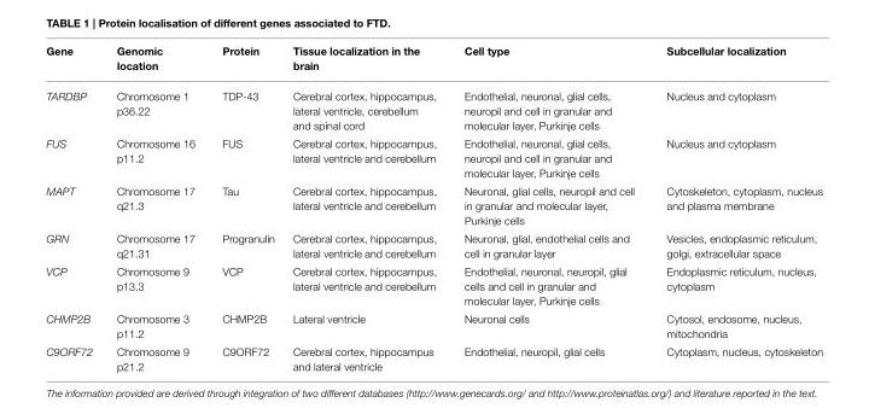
<table><thead><tr><td>Gene</td><td>Genomic location</td><td>Protein</td><td>Tissue localization in the brain</td><td>Cell type</td><td>Subcellular localization</td></tr></thead><tbody><tr><td>TARDBP</td><td>Chromosome 1 p36.22</td><td>TDP-43</td><td>Cerebral cortex, hippocampus, lateral ventricle, cerebellum and spinal cord</td><td>Endothelial, neuronal, glial cells, neuropil and cell in granular and molecular layer, Purkinje cells</td><td>Nucleus and cytoplasm</td></tr><tr><td>FUS</td><td>Chromosome 16 p11.2</td><td>FUS</td><td>Cerebral cortex, hippocampus, lateral ventricle and cerebellum</td><td>Endothelial, neuronal, glial cells, neuropil and cell in granular and molecular layer, Purkinje cells</td><td>Nucleus and cytoplasm</td></tr><tr><td>MAPT</td><td>Chromosome 17 q21.3</td><td>Tau</td><td>Cerebral cortex, hippocampus, lateral ventricle and cerebellum</td><td>Neuronal, glial cells, neuropil and cell in granular and molecular layer, Purkinje cells</td><td>Cytoskeleton, cytoplasm, nucleus and plasma membrane</td></tr><tr><td>GRN</td><td>Chromosome 17 q21.31</td><td>Progranulin</td><td>Cerebral cortex, hippocampus, lateral ventricle and cerebellum</td><td>Neuronal, glial, endothelial cells and cell in granular layer</td><td>Vesicles, endoplasmic reticulum, golgi, extracellular space</td></tr><tr><td>VCP</td><td>Chromosome 9 p13.3</td><td>VCP</td><td>Cerebral cortex, hippocampus, lateral ventricle and cerebellum</td><td>Endothelial, neuronal, neuropil, glial cells and cell in granular and molecular layer, Purkinje cells</td><td>Endoplasmic reticulum, nucleus, cytoplasm</td></tr><tr><td>CHMP2B</td><td>Chromosome 3 p11.2</td><td>CHMP2B</td><td>Lateral ventricle</td><td>Neuronal cells</td><td>Cytosol, endosome, nucleus, mitochondria</td></tr><tr><td>C9ORF72</td><td>Chromosome 9 p21.2</td><td>C9ORF72</td><td>Cerebral cortex, hippocampus and lateral ventricle</td><td>Endothelial, neuropil, glial cells</td><td>Cytoplasm, nucleus, cytoskeleton</td></tr></tbody></table>